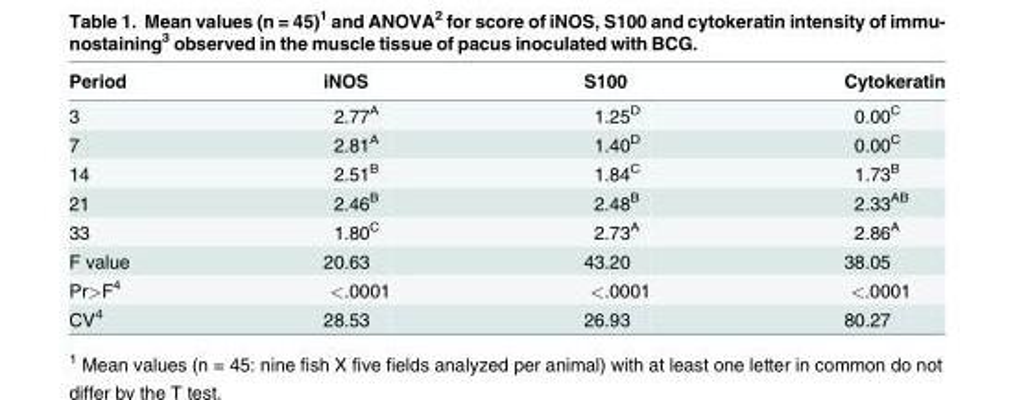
<table><thead><tr><td>Period</td><td>iNOS</td><td>S100</td><td>Cytokeratin</td></tr></thead><tbody><tr><td>3</td><td>2.77<sup>A</sup></td><td>1.25<sup>D</sup></td><td>0.00<sup>C</sup></td></tr><tr><td>7</td><td>2.81<sup>A</sup></td><td>1.40<sup>D</sup></td><td>0.00<sup>C</sup></td></tr><tr><td>14</td><td>2.51<sup>B</sup></td><td>1.84<sup>C</sup></td><td>1.73<sup>B</sup></td></tr><tr><td>21</td><td>2.46<sup>B</sup></td><td>2.48<sup>B</sup></td><td>2.33<sup>AB</sup></td></tr><tr><td>33</td><td>1.80<sup>C</sup></td><td>2.73<sup>A</sup></td><td>2.86<sup>A</sup></td></tr><tr><td>F value</td><td>20.63</td><td>43.20</td><td>38.05</td></tr><tr><td>Pr&gt;F<sup>4</sup></td><td>&lt;.0001</td><td>&lt;.0001</td><td>&lt;.0001</td></tr><tr><td>CV<sup>4</sup></td><td>28.53</td><td>26.93</td><td>80.27</td></tr></tbody></table>